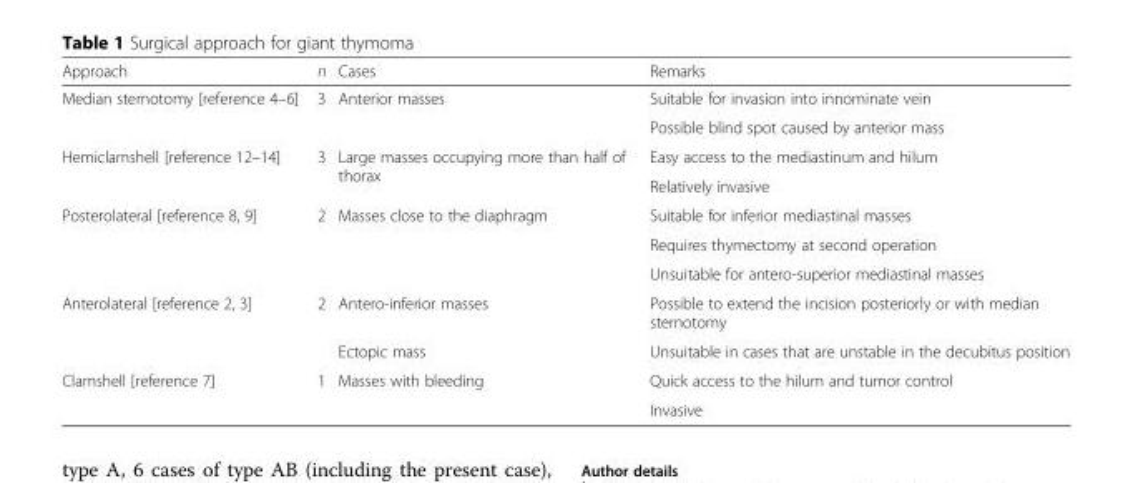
<table><thead><tr><td>Approach</td><td>n</td><td>Cases</td><td>Remarks</td></tr></thead><tbody><tr><td rowspan="2">Median sternotomy [reference 4–6]</td><td rowspan="2">3</td><td rowspan="2">Anterior masses</td><td>Suitable for invasion into innominate vein</td></tr><tr><td>Possible blind spot caused by anterior mass</td></tr><tr><td rowspan="2">Hemiclamshell [reference 12–14]</td><td rowspan="2">3</td><td rowspan="2">Large masses occupying more than half of thorax</td><td>Easy access to the mediastinum and hilum</td></tr><tr><td>Relatively invasive</td></tr><tr><td rowspan="3">Posterolateral [reference 8, 9]</td><td rowspan="3">2</td><td rowspan="3">Masses close to the diaphragm</td><td>Suitable for inferior mediastinal masses</td></tr><tr><td>Requires thymectomy at second operation</td></tr><tr><td>Unsuitable for antero-superior mediastinal masses</td></tr><tr><td rowspan="2">Anterolateral [reference 2, 3]</td><td rowspan="2">2</td><td>Antero-inferior masses</td><td>Possible to extend the incision posteriorly or with median sternotomy</td></tr><tr><td>Ectopic mass</td><td>Unsuitable in cases that are unstable in the decubitus position</td></tr><tr><td rowspan="2">Clamshell [reference 7]</td><td rowspan="2">1</td><td rowspan="2">Masses with bleeding</td><td>Quick access to the hilum and tumor control</td></tr><tr><td>Invasive</td></tr></tbody></table>